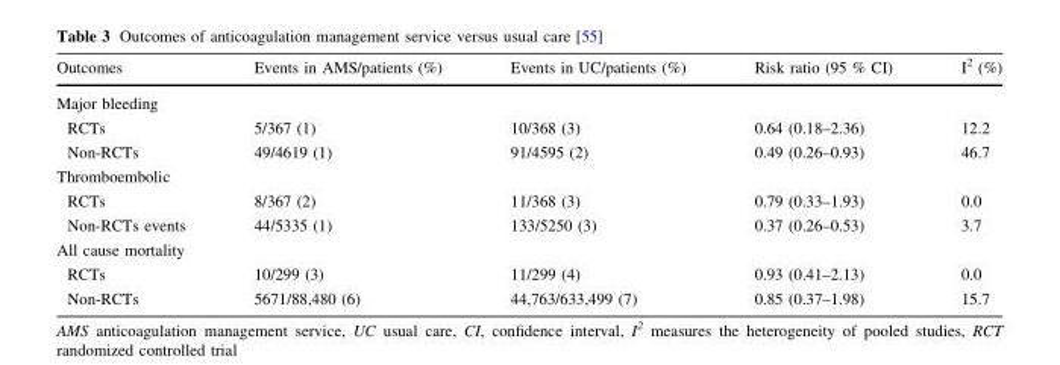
<table><thead><tr><td>Outcomes</td><td>Events in AMS/patients (%)</td><td>Events in UC/patients (%)</td><td>Risk ratio (95 % CI)</td><td>I<sup>2</sup> (%)</td></tr></thead><tbody><tr><td colspan="5">Major bleeding</td></tr><tr><td>RCTs</td><td>5/367 (1)</td><td>10/368 (3)</td><td>0.64 (0.18–2.36)</td><td>12.2</td></tr><tr><td>Non-RCTs</td><td>49/4619 (1)</td><td>91/4595 (2)</td><td>0.49 (0.26–0.93)</td><td>46.7</td></tr><tr><td colspan="5">Thromboembolic</td></tr><tr><td>RCTs</td><td>8/367 (2)</td><td>11/368 (3)</td><td>0.79 (0.33–1.93)</td><td>0.0</td></tr><tr><td>Non-RCTs events</td><td>44/5335 (1)</td><td>133/5250 (3)</td><td>0.37 (0.26–0.53)</td><td>3.7</td></tr><tr><td colspan="5">All cause mortality</td></tr><tr><td>RCTs</td><td>10/299 (3)</td><td>11/299 (4)</td><td>0.93 (0.41–2.13)</td><td>0.0</td></tr><tr><td>Non-RCTs</td><td>5671/88,480 (6)</td><td>44,763/633,499 (7)</td><td>0.85 (0.37–1.98)</td><td>15.7</td></tr></tbody></table>